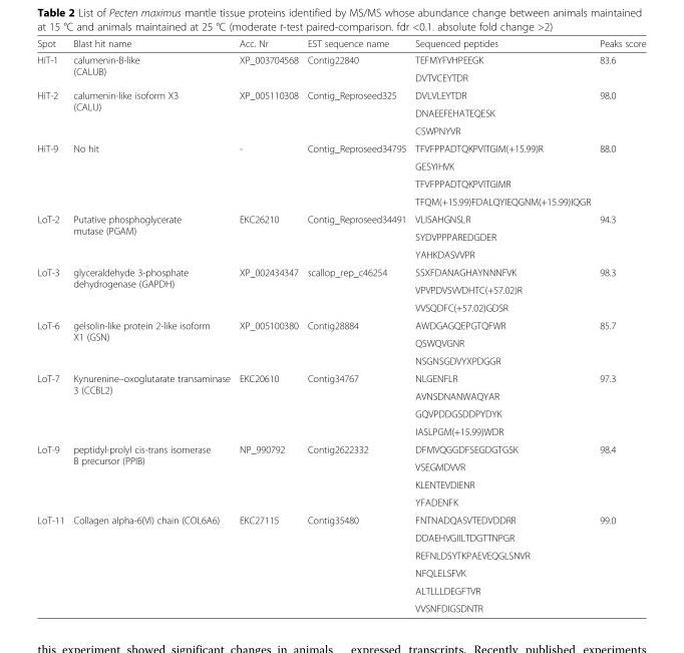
<table><thead><tr><td>Spot</td><td>Blast hit name</td><td>Acc. Nr</td><td>EST sequence name</td><td>Sequenced peptides</td><td>Peaks score</td></tr></thead><tbody><tr><td rowspan="2">HiT-1</td><td rowspan="2">calumenin-B-like (CALUB)</td><td rowspan="2">XP_003704568</td><td rowspan="2">Contig22840</td><td>TEFMYFVHPEEGK</td><td rowspan="2">83.6</td></tr><tr><td>DVTVCEYTDR</td></tr><tr><td rowspan="3">HiT-2</td><td rowspan="3">calumenin-like isoform X3 (CALU)</td><td rowspan="3">XP_005110308</td><td rowspan="3">Contig_Reproseed325</td><td>DVLVLEYTDR</td><td rowspan="3">98.0</td></tr><tr><td>DNAEEFEHATEQESK</td></tr><tr><td>CSWPNYVR</td></tr><tr><td rowspan="4">HiT-9</td><td rowspan="4">No hit</td><td rowspan="4">-</td><td rowspan="4">Contig_Reproseed34795</td><td>TFVFPPADTQKPVITGIM(+15.99)R</td><td rowspan="4">88.0</td></tr><tr><td>GESYIHVK</td></tr><tr><td>TFVFPPADTQKPVITGIMR</td></tr><tr><td>TFQM(+15.99)FDALQYIEQGNM(+15.99)IQGR</td></tr><tr><td rowspan="3">LoT-2</td><td rowspan="3">Putative phosphoglycerate mutase (PGAM)</td><td rowspan="3">EKC26210</td><td rowspan="3">Contig_Reproseed34491</td><td>VLISAHGNSLR</td><td rowspan="3">94.3</td></tr><tr><td>SYDVPPPAREDGDER</td></tr><tr><td>YAHKDASVVPR</td></tr><tr><td rowspan="3">LoT-3</td><td rowspan="3">glyceraldehyde 3-phosphate dehydrogenase (GAPDH)</td><td rowspan="3">XP_002434347</td><td rowspan="3">scallop_rep_c46254</td><td>SSXFDANAGHAYNNNFVK</td><td rowspan="3">98.3</td></tr><tr><td>VPVPDVSVVDHTC(+57.02)R</td></tr><tr><td>VVSQDFC(+57.02)GDSR</td></tr><tr><td rowspan="3">LoT-6</td><td rowspan="3">gelsolin-like protein 2-like isoform X1 (GSN)</td><td rowspan="3">XP_005100380</td><td rowspan="3">Contig28884</td><td>AWDGAGQEPGTQFWR</td><td rowspan="3">85.7</td></tr><tr><td>QSWQVGNR</td></tr><tr><td>NSGNSGDVYXPDGGR</td></tr><tr><td rowspan="4">LoT-7</td><td rowspan="4">Kynurenine–oxoglutarate transaminase 3 (CCBL2)</td><td rowspan="4">EKC20610</td><td rowspan="4">Contig34767</td><td>NLGENFLR</td><td rowspan="4">97.3</td></tr><tr><td>AVNSDNANWAQYAR</td></tr><tr><td>GQVPDDGSDDPYDYK</td></tr><tr><td>IASLPGM(+15.99)WDR</td></tr><tr><td rowspan="4">LoT-9</td><td rowspan="4">peptidyl-prolyl cis-trans isomerase B precursor (PPIB)</td><td rowspan="4">NP_990792</td><td rowspan="4">Contig2622332</td><td>DFMVQGGDFSEGDGTGSK</td><td rowspan="4">98.4</td></tr><tr><td>VSEGMDVVR</td></tr><tr><td>KLENTEVDIENR</td></tr><tr><td>YFADENFK</td></tr><tr><td rowspan="6">LoT-11</td><td rowspan="6">Collagen alpha-6(VI) chain (COL6A6)</td><td rowspan="6">EKC27115</td><td rowspan="6">Contig35480</td><td>FNTNADQASVTEDVDDRR</td><td rowspan="6">99.0</td></tr><tr><td>DDAEHVGIILTDGTTNPGR</td></tr><tr><td>REFNLDSYTKPAEVEQGLSNVR</td></tr><tr><td>NFQLELSFVK</td></tr><tr><td>ALTLLLDEGFTVR</td></tr><tr><td>VVSNFDIGSDNTR</td></tr></tbody></table>